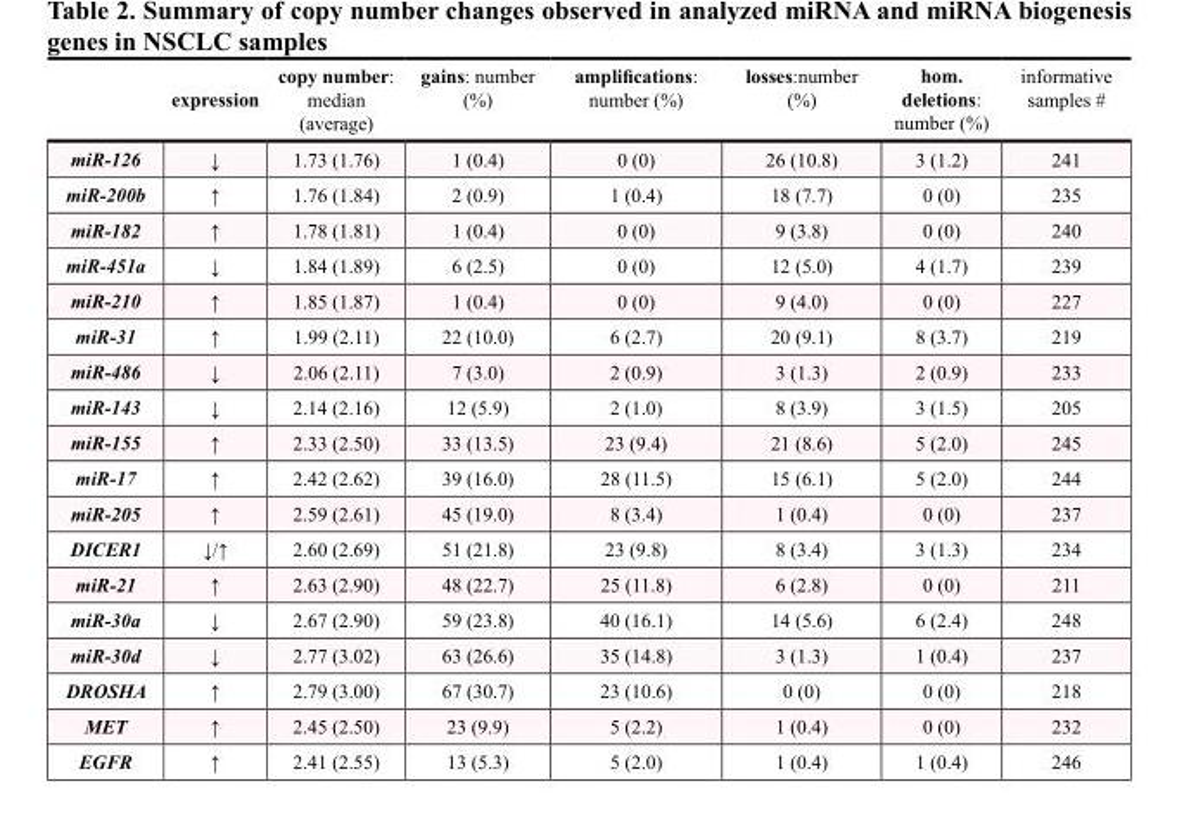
<table><thead><tr><td></td><td>expression</td><td>copy number: median (average)</td><td>gains: number (%)</td><td>amplifications: number (%)</td><td>losses:number (%)</td><td>hom. deletions: number (%)</td><td>informative samples #</td></tr></thead><tbody><tr><td>miR-126</td><td>↓</td><td>1.73 (1.76)</td><td>1 (0.4)</td><td>0 (0)</td><td>26 (10.8)</td><td>3 (1.2)</td><td>241</td></tr><tr><td>miR-200b</td><td>↑</td><td>1.76 (1.84)</td><td>2 (0.9)</td><td>1 (0.4)</td><td>18 (7.7)</td><td>0 (0)</td><td>235</td></tr><tr><td>miR-182</td><td>↑</td><td>1.78 (1.81)</td><td>1 (0.4)</td><td>0 (0)</td><td>9 (3.8)</td><td>0 (0)</td><td>240</td></tr><tr><td>miR-451a</td><td>↓</td><td>1.84 (1.89)</td><td>6 (2.5)</td><td>0 (0)</td><td>12 (5.0)</td><td>4 (1.7)</td><td>239</td></tr><tr><td>miR-210</td><td>↑</td><td>1.85 (1.87)</td><td>1 (0.4)</td><td>0 (0)</td><td>9 (4.0)</td><td>0 (0)</td><td>227</td></tr><tr><td>miR-31</td><td>↑</td><td>1.99 (2.11)</td><td>22 (10.0)</td><td>6 (2.7)</td><td>20 (9.1)</td><td>8 (3.7)</td><td>219</td></tr><tr><td>miR-486</td><td>↓</td><td>2.06 (2.11)</td><td>7 (3.0)</td><td>2 (0.9)</td><td>3 (1.3)</td><td>2 (0.9)</td><td>233</td></tr><tr><td>miR-143</td><td>↓</td><td>2.14 (2.16)</td><td>12 (5.9)</td><td>2 (1.0)</td><td>8 (3.9)</td><td>3 (1.5)</td><td>205</td></tr><tr><td>miR-155</td><td>↑</td><td>2.33 (2.50)</td><td>33 (13.5)</td><td>23 (9.4)</td><td>21 (8.6)</td><td>5 (2.0)</td><td>245</td></tr><tr><td>miR-17</td><td>↑</td><td>2.42 (2.62)</td><td>39 (16.0)</td><td>28 (11.5)</td><td>15 (6.1)</td><td>5 (2.0)</td><td>244</td></tr><tr><td>miR-205</td><td>↑</td><td>2.59 (2.61)</td><td>45 (19.0)</td><td>8 (3.4)</td><td>1 (0.4)</td><td>0 (0)</td><td>237</td></tr><tr><td>DICER1</td><td>↓/↑</td><td>2.60 (2.69)</td><td>51 (21.8)</td><td>23 (9.8)</td><td>8 (3.4)</td><td>3 (1.3)</td><td>234</td></tr><tr><td>miR-21</td><td>↑</td><td>2.63 (2.90)</td><td>48 (22.7)</td><td>25 (11.8)</td><td>6 (2.8)</td><td>0 (0)</td><td>211</td></tr><tr><td>miR-30a</td><td>↓</td><td>2.67 (2.90)</td><td>59 (23.8)</td><td>40 (16.1)</td><td>14 (5.6)</td><td>6 (2.4)</td><td>248</td></tr><tr><td>miR-30d</td><td>↓</td><td>2.77 (3.02)</td><td>63 (26.6)</td><td>35 (14.8)</td><td>3 (1.3)</td><td>1 (0.4)</td><td>237</td></tr><tr><td>DROSHA</td><td>↑</td><td>2.79 (3.00)</td><td>67 (30.7)</td><td>23 (10.6)</td><td>0 (0)</td><td>0 (0)</td><td>218</td></tr><tr><td>MET</td><td>↑</td><td>2.45 (2.50)</td><td>23 (9.9)</td><td>5 (2.2)</td><td>1 (0.4)</td><td>0 (0)</td><td>232</td></tr><tr><td>EGFR</td><td>↑</td><td>2.41 (2.55)</td><td>13 (5.3)</td><td>5 (2.0)</td><td>1 (0.4)</td><td>1 (0.4)</td><td>246</td></tr></tbody></table>